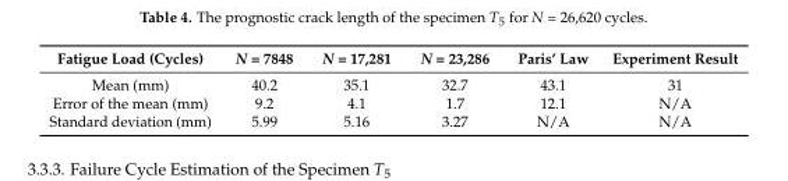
<table><thead><tr><td>Fatigue Load (Cycles)</td><td>N = 7848</td><td>N = 17,281</td><td>N = 23,286</td><td>Paris’ Law</td><td>Experiment Result</td></tr></thead><tbody><tr><td>Mean (mm)</td><td>40.2</td><td>35.1</td><td>32.7</td><td>43.1</td><td>31</td></tr><tr><td>Error of the mean (mm)</td><td>9.2</td><td>4.1</td><td>1.7</td><td>12.1</td><td>N/A</td></tr><tr><td>Standard deviation (mm)</td><td>5.99</td><td>5.16</td><td>3.27</td><td>N/A</td><td>N/A</td></tr></tbody></table>